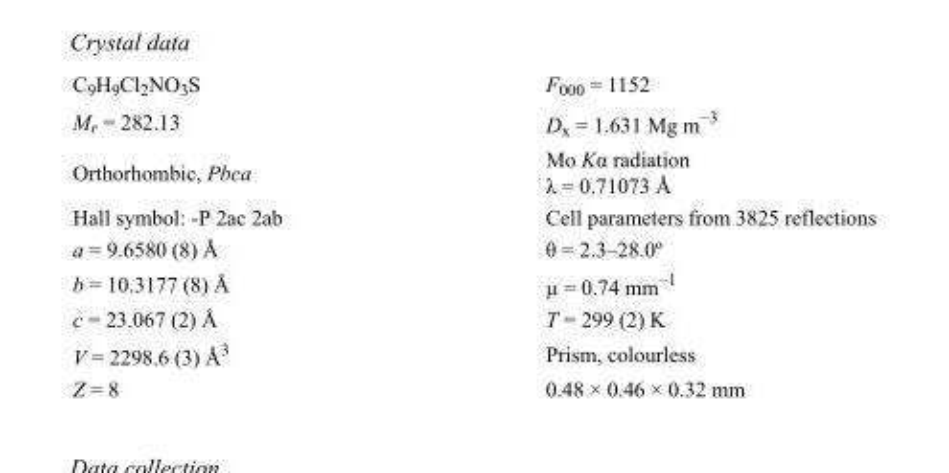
<table><tbody><tr><td>C<sub>9</sub>H<sub>9</sub>Cl<sub>2</sub>NO<sub>3</sub>S</td><td>F<sub>000</sub> = 1152</td></tr><tr><td>M<sub>r</sub> = 282.13</td><td>D<sub>x</sub> = 1.631 Mg m<sup>−3</sup></td></tr><tr><td>Orthorhombic, Pbca</td><td>Mo Kα radiation λ = 0.71073 Å</td></tr><tr><td>Hall symbol: -P 2ac 2ab</td><td>Cell parameters from 3825 reflections</td></tr><tr><td>a = 9.6580 (8) Å</td><td>θ = 2.3–28.0º</td></tr><tr><td>b = 10.3177 (8) Å</td><td>µ = 0.74 mm<sup>−1</sup></td></tr><tr><td>c = 23.067 (2) Å</td><td>T = 299 (2) K</td></tr><tr><td>V = 2298.6 (3) Å<sup>3</sup></td><td>Prism, colourless</td></tr><tr><td>Z = 8</td><td>0.48 × 0.46 × 0.32 mm</td></tr></tbody></table>